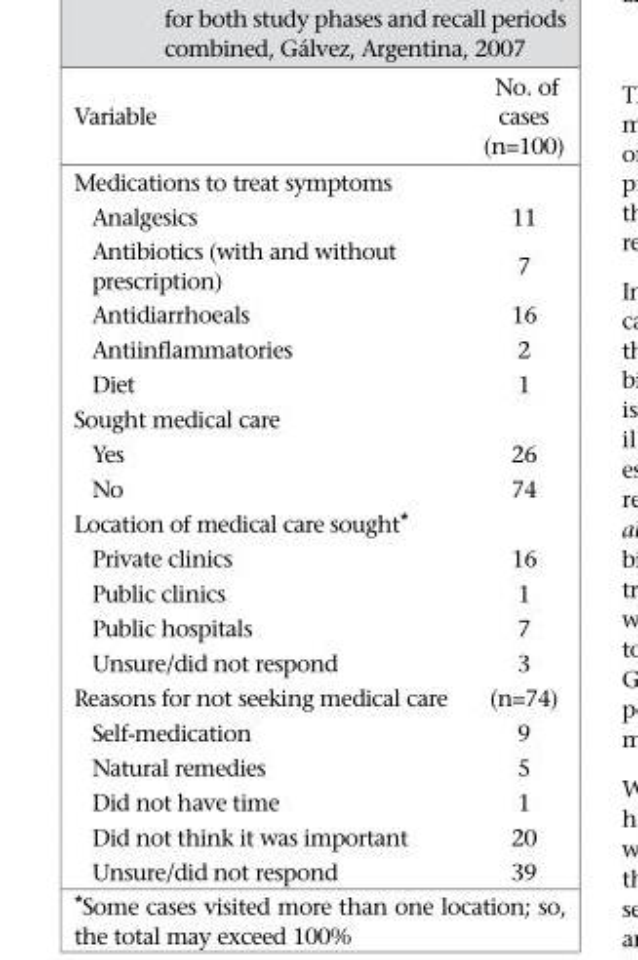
<table><thead><tr><td>Variable</td><td>No. of cases (n=100)</td></tr></thead><tbody><tr><td colspan="2">Medications to treat symptoms</td></tr><tr><td>Analgesics</td><td>11</td></tr><tr><td>Antibiotics (with and without prescription)</td><td>7</td></tr><tr><td>Antidiarrhoeals</td><td>16</td></tr><tr><td>Antiinflammatories</td><td>2</td></tr><tr><td>Diet</td><td>1</td></tr><tr><td colspan="2">Sought medical care</td></tr><tr><td>Yes</td><td>26</td></tr><tr><td>No</td><td>74</td></tr><tr><td colspan="2">Location of medical care sought*</td></tr><tr><td>Private clinics</td><td>16</td></tr><tr><td>Public clinics</td><td>1</td></tr><tr><td>Public hospitals</td><td>7</td></tr><tr><td>Unsure/did not respond</td><td>3</td></tr><tr><td>Reasons for not seeking medical care</td><td>(n=74)</td></tr><tr><td>Self-medication</td><td>9</td></tr><tr><td>Natural remedies</td><td>5</td></tr><tr><td>Did not have time</td><td>1</td></tr><tr><td>Did not think it was important</td><td>20</td></tr><tr><td>Unsure/did not respond</td><td>39</td></tr></tbody></table>